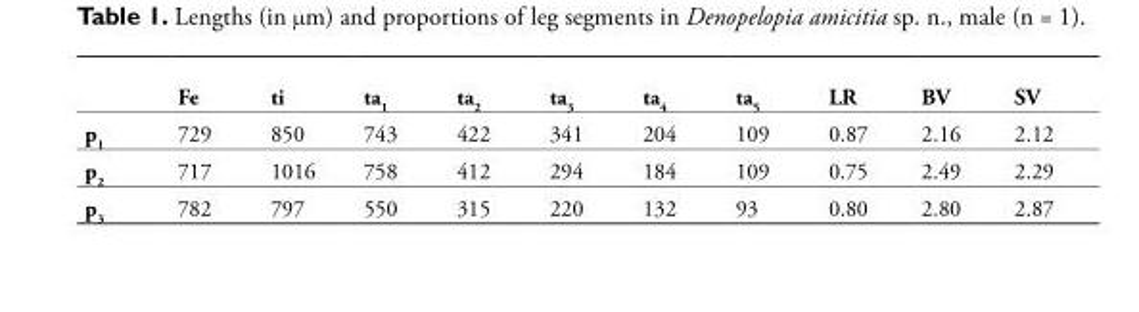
<table><thead><tr><td></td><td>Fe</td><td>ti</td><td>ta<sub>1</sub></td><td>ta<sub>2</sub></td><td>ta<sub>3</sub></td><td>ta<sub>4</sub></td><td>ta<sub>5</sub></td><td>LR</td><td>BV</td><td>SV</td></tr></thead><tbody><tr><td>p<sub>1</sub></td><td>729</td><td>850</td><td>743</td><td>422</td><td>341</td><td>204</td><td>109</td><td>0.87</td><td>2.16</td><td>2.12</td></tr><tr><td>p<sub>2</sub></td><td>717</td><td>1016</td><td>758</td><td>412</td><td>294</td><td>184</td><td>109</td><td>0.75</td><td>2.49</td><td>2.29</td></tr><tr><td>p<sub>3</sub></td><td>782</td><td>797</td><td>550</td><td>315</td><td>220</td><td>132</td><td>93</td><td>0.80</td><td>2.80</td><td>2.87</td></tr></tbody></table>